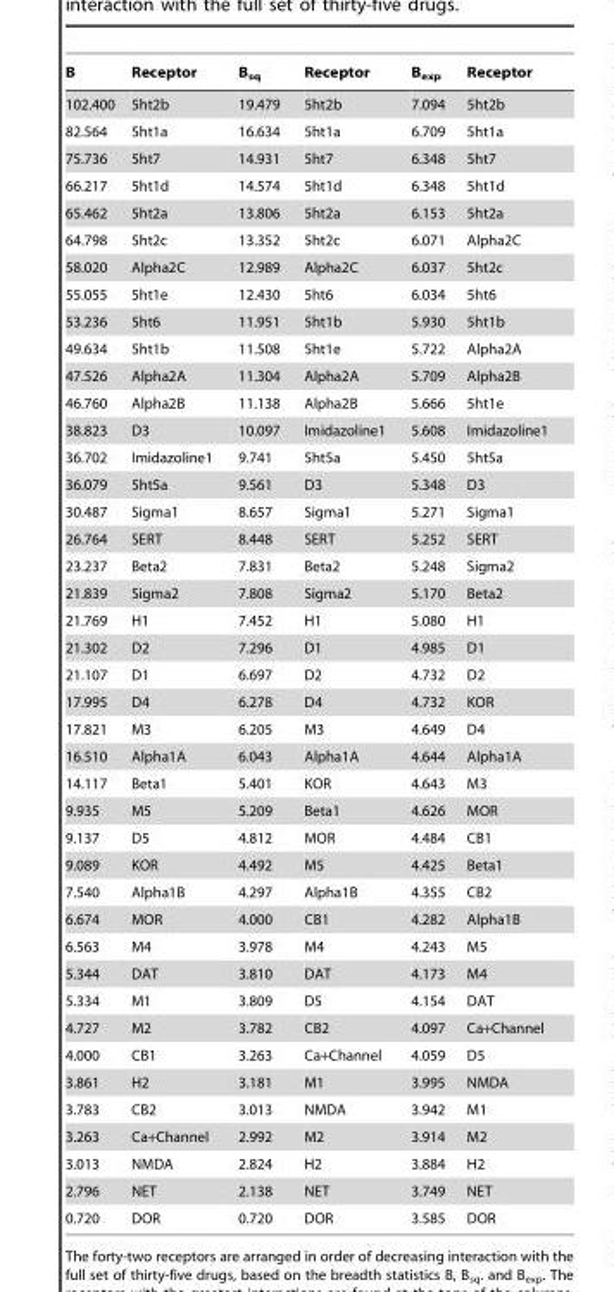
<table><thead><tr><td>B</td><td>Receptor</td><td>B<sub>sq</sub></td><td>Receptor</td><td>B<sub>exp</sub></td><td>Receptor</td></tr></thead><tbody><tr><td>102.400</td><td>5ht2b</td><td>19.479</td><td>5ht2b</td><td>7.094</td><td>5ht2b</td></tr><tr><td>82.564</td><td>5ht1a</td><td>16.634</td><td>5ht1a</td><td>6.709</td><td>5ht1a</td></tr><tr><td>75.736</td><td>5ht7</td><td>14.931</td><td>5ht7</td><td>6.348</td><td>5ht7</td></tr><tr><td>66.217</td><td>5ht1d</td><td>14.574</td><td>5ht1d</td><td>6.348</td><td>5ht1d</td></tr><tr><td>65.462</td><td>5ht2a</td><td>13.806</td><td>5ht2a</td><td>6.153</td><td>5ht2a</td></tr><tr><td>64.798</td><td>5ht2c</td><td>13.352</td><td>5ht2c</td><td>6.071</td><td>Alpha2C</td></tr><tr><td>58.020</td><td>Alpha2C</td><td>12.989</td><td>Alpha2C</td><td>6.037</td><td>5ht2c</td></tr><tr><td>55.055</td><td>5ht1e</td><td>12.430</td><td>5ht6</td><td>6.034</td><td>5ht6</td></tr><tr><td>53.236</td><td>5ht6</td><td>11.951</td><td>5ht1b</td><td>5.930</td><td>5ht1b</td></tr><tr><td>49.634</td><td>5ht1b</td><td>11.508</td><td>5ht1e</td><td>5.722</td><td>Alpha2A</td></tr><tr><td>47.526</td><td>Alpha2A</td><td>11.304</td><td>Alpha2A</td><td>5.709</td><td>Alpha2B</td></tr><tr><td>46.760</td><td>Alpha2B</td><td>11.138</td><td>Alpha2B</td><td>5.666</td><td>5ht1e</td></tr><tr><td>38.823</td><td>D3</td><td>10.097</td><td>Imidazoline1</td><td>5.608</td><td>Imidazoline1</td></tr><tr><td>36.702</td><td>Imidazoline1</td><td>9.741</td><td>5ht5a</td><td>5.450</td><td>5ht5a</td></tr><tr><td>36.079</td><td>5ht5a</td><td>9.561</td><td>D3</td><td>5.348</td><td>D3</td></tr><tr><td>30.487</td><td>Sigma1</td><td>8.657</td><td>Sigma1</td><td>5.271</td><td>Sigma1</td></tr><tr><td>26.764</td><td>SERT</td><td>8.448</td><td>SERT</td><td>5.252</td><td>SERT</td></tr><tr><td>23.237</td><td>Beta2</td><td>7.831</td><td>Beta2</td><td>5.248</td><td>Sigma2</td></tr><tr><td>21.839</td><td>Sigma2</td><td>7.808</td><td>Sigma2</td><td>5.170</td><td>Beta2</td></tr><tr><td>21.769</td><td>H1</td><td>7.452</td><td>H1</td><td>5.080</td><td>H1</td></tr><tr><td>21.302</td><td>D2</td><td>7.296</td><td>D1</td><td>4.985</td><td>D1</td></tr><tr><td>21.107</td><td>D1</td><td>6.697</td><td>D2</td><td>4.732</td><td>D2</td></tr><tr><td>17.995</td><td>D4</td><td>6.278</td><td>D4</td><td>4.732</td><td>KOR</td></tr><tr><td>17.821</td><td>M3</td><td>6.205</td><td>M3</td><td>4.649</td><td>D4</td></tr><tr><td>16.510</td><td>Alpha1A</td><td>6.043</td><td>Alpha1A</td><td>4.644</td><td>Alpha1A</td></tr><tr><td>14.117</td><td>Beta1</td><td>5.401</td><td>KOR</td><td>4.643</td><td>M3</td></tr><tr><td>9.935</td><td>M5</td><td>5.209</td><td>Beta1</td><td>4.626</td><td>MOR</td></tr><tr><td>9.137</td><td>D5</td><td>4.812</td><td>MOR</td><td>4.484</td><td>CB1</td></tr><tr><td>9.089</td><td>KOR</td><td>4.492</td><td>M5</td><td>4.425</td><td>Beta1</td></tr><tr><td>7.540</td><td>Alpha1B</td><td>4.297</td><td>Alpha1B</td><td>4.355</td><td>CB2</td></tr><tr><td>6.674</td><td>MOR</td><td>4.000</td><td>CB1</td><td>4.282</td><td>Alpha1B</td></tr><tr><td>6.563</td><td>M4</td><td>3.978</td><td>M4</td><td>4.243</td><td>M5</td></tr><tr><td>5.344</td><td>DAT</td><td>3.810</td><td>DAT</td><td>4.173</td><td>M4</td></tr><tr><td>5.334</td><td>M1</td><td>3.809</td><td>D5</td><td>4.154</td><td>DAT</td></tr><tr><td>4.727</td><td>M2</td><td>3.782</td><td>CB2</td><td>4.097</td><td>Ca+Channel</td></tr><tr><td>4.000</td><td>CB1</td><td>3.263</td><td>Ca+Channel</td><td>4.059</td><td>D5</td></tr><tr><td>3.861</td><td>H2</td><td>3.181</td><td>M1</td><td>3.995</td><td>NMDA</td></tr><tr><td>3.783</td><td>CB2</td><td>3.013</td><td>NMDA</td><td>3.942</td><td>M1</td></tr><tr><td>3.263</td><td>Ca+Channel</td><td>2.992</td><td>M2</td><td>3.914</td><td>M2</td></tr><tr><td>3.013</td><td>NMDA</td><td>2.824</td><td>H2</td><td>3.884</td><td>H2</td></tr><tr><td>2.796</td><td>NET</td><td>2.138</td><td>NET</td><td>3.749</td><td>NET</td></tr><tr><td>0.720</td><td>DOR</td><td>0.720</td><td>DOR</td><td>3.585</td><td>DOR</td></tr></tbody></table>